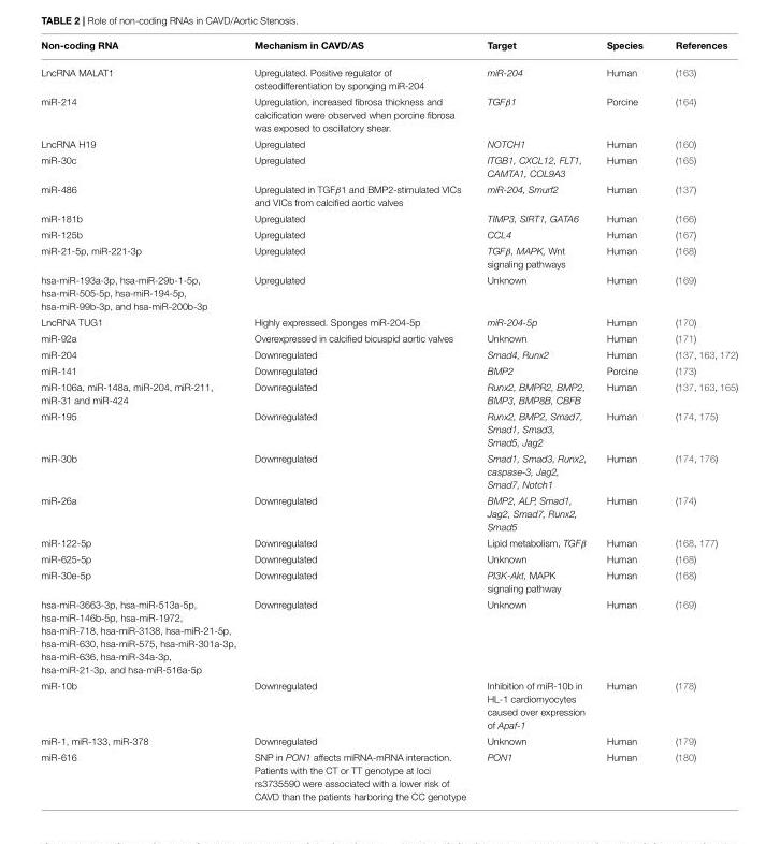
<table><thead><tr><td>Non-coding RNA</td><td>Mechanism in CAVD/AS</td><td>Target</td><td>Species</td><td>References</td></tr></thead><tbody><tr><td>LncRNA MALAT1</td><td>Upregulated. Positive regulator of osteodifferentiation by sponging miR-204</td><td>miR-204</td><td>Human</td><td>(163)</td></tr><tr><td>miR-214</td><td>Upregulation, increased fibrosa thickness and calcification were observed when porcine fibrosa was exposed to oscillatory shear.</td><td>TGFβ1</td><td>Porcine</td><td>(164)</td></tr><tr><td>LncRNA H19</td><td>Upregulated</td><td>NOTCH1</td><td>Human</td><td>(160)</td></tr><tr><td>miR-30c</td><td>Upregulated</td><td>ITGB1, CXCL12, FLT1, CAMTA1, COL9A3</td><td>Human</td><td>(165)</td></tr><tr><td>miR-486</td><td>Upregulated in TGFβ1 and BMP2-stimulated VICs and VICs from calcified aortic valves</td><td>miR-204, Smurf2</td><td>Human</td><td>(137)</td></tr><tr><td>miR-181b</td><td>Upregulated</td><td>TIMP3, SIRT1, GATA6</td><td>Human</td><td>(166)</td></tr><tr><td>miR-125b</td><td>Upregulated</td><td>CCL4</td><td>Human</td><td>(167)</td></tr><tr><td>miR-21-5p, miR-221-3p</td><td>Upregulated</td><td>TGFβ, MAPK, Wnt signaling pathways</td><td>Human</td><td>(168)</td></tr><tr><td>hsa-miR-193a-3p, hsa-miR-29b-1-5p, hsa-miR-505-5p, hsa-miR-194-5p, hsa-miR-99b-3p, and hsa-miR-200b-3p</td><td>Upregulated</td><td>Unknown</td><td>Human</td><td>(169)</td></tr><tr><td>LncRNA TUG1</td><td>Highly expressed. Sponges miR-204-5p</td><td>miR-204-5p</td><td>Human</td><td>(170)</td></tr><tr><td>miR-92a</td><td>Overexpressed in calcified bicuspid aortic valves</td><td>Unknown</td><td>Human</td><td>(171)</td></tr><tr><td>miR-204</td><td>Downregulated</td><td>Smad4, Runx2</td><td>Human</td><td>(137, 163, 172)</td></tr><tr><td>miR-141</td><td>Downregulated</td><td>BMP2</td><td>Porcine</td><td>(173)</td></tr><tr><td>miR-106a, miR-148a, miR-204, miR-211, miR-31 and miR-424</td><td>Downregulated</td><td>Runx2, BMPR2, BMP2, BMP3, BMP8B, CBFB</td><td>Human</td><td>(137, 163, 165)</td></tr><tr><td>miR-195</td><td>Downregulated</td><td>Runx2, BMP2, Smad7, Smad1, Smad3, Smad5, Jag2</td><td>Human</td><td>(174, 175)</td></tr><tr><td>miR-30b</td><td>Downregulated</td><td>Smad1, Smad3, Runx2, caspase-3, Jag2, Smad7, Notch1</td><td>Human</td><td>(174, 176)</td></tr><tr><td>miR-26a</td><td>Downregulated</td><td>BMP2, ALP, Smad1, Jag2, Smad7, Runx2, Smad5</td><td>Human</td><td>(174)</td></tr><tr><td>miR-122-5p</td><td>Downregulated</td><td>Lipid metabolism, TGFβ</td><td>Human</td><td>(168, 177)</td></tr><tr><td>miR-625-5p</td><td>Downregulated</td><td>Unknown</td><td>Human</td><td>(168)</td></tr><tr><td>miR-30e-5p</td><td>Downregulated</td><td>PI3K-Akt, MAPK signaling pathway</td><td>Human</td><td>(168)</td></tr><tr><td>hsa-miR-3663-3p, hsa-miR-513a-5p, hsa-miR-146b-5p, hsa-miR-1972, hsa-miR-718, hsa-miR-3138, hsa-miR-21-5p, hsa-miR-630, hsa-miR-575, hsa-miR-301a-3p, hsa-miR-636, hsa-miR-34a-3p, hsa-miR-21-3p, and hsa-miR-516a-5p</td><td>Downregulated</td><td>Unknown</td><td>Human</td><td>(169)</td></tr><tr><td>miR-10b</td><td>Downregulated</td><td>Inhibition of miR-10b in HL-1 cardiomyocytes caused over expression of Apaf-1</td><td>Human</td><td>(178)</td></tr><tr><td>miR-1, miR-133, miR-378</td><td>Downregulated</td><td>Unknown</td><td>Human</td><td>(179)</td></tr><tr><td>miR-616</td><td>SNP in PON1 affects miRNA-mRNA interaction. Patients with the CT or TT genotype at loci rs3735590 were associated with a lower risk of CAVD than the patients harboring the CC genotype</td><td>PON1</td><td>Human</td><td>(180)</td></tr></tbody></table>